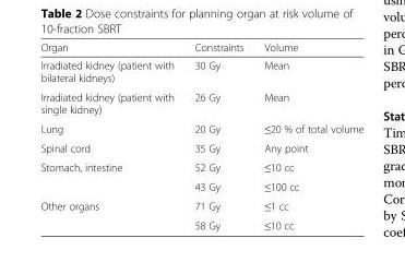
<table><thead><tr><td>Organ</td><td>Constraints</td><td>Volume</td></tr></thead><tbody><tr><td>Irradiated kidney (patient with bilateral kidneys)</td><td>30 Gy</td><td>Mean</td></tr><tr><td>Irradiated kidney (patient with single kidney)</td><td>26 Gy</td><td>Mean</td></tr><tr><td>Lung</td><td>20 Gy</td><td>≤20 % of total volume</td></tr><tr><td>Spinal cord</td><td>35 Gy</td><td>Any point</td></tr><tr><td rowspan="2">Stomach, intestine</td><td>52 Gy</td><td>≤10 cc</td></tr><tr><td>43 Gy</td><td>≤100 cc</td></tr><tr><td rowspan="2">Other organs</td><td>71 Gy</td><td>≤1 cc</td></tr><tr><td>58 Gy</td><td>≤10 cc</td></tr></tbody></table>